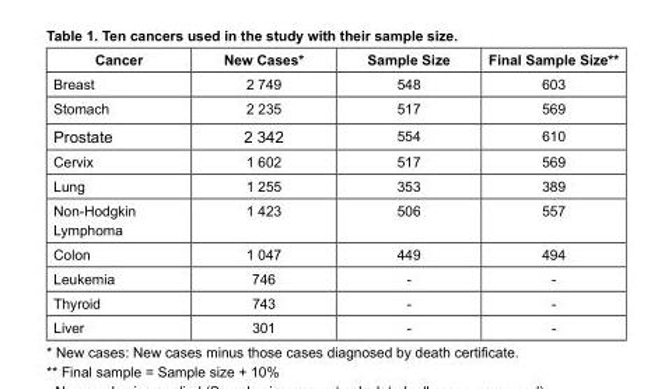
<table><thead><tr><td>Cancer</td><td>New Cases*</td><td>Sample Size</td><td>Final Sample Size**</td></tr></thead><tbody><tr><td>Breast</td><td>2 749</td><td>548</td><td>603</td></tr><tr><td>Stomach</td><td>2 235</td><td>517</td><td>569</td></tr><tr><td>Prostate</td><td>2 342</td><td>554</td><td>610</td></tr><tr><td>Cervix</td><td>1 602</td><td>517</td><td>569</td></tr><tr><td>Lung</td><td>1 255</td><td>353</td><td>389</td></tr><tr><td>Non-Hodgkin Lymphoma</td><td>1 423</td><td>506</td><td>557</td></tr><tr><td>Colon</td><td>1 047</td><td>449</td><td>494</td></tr><tr><td>Leukemia</td><td>746</td><td>-</td><td>-</td></tr><tr><td>Thyroid</td><td>743</td><td>-</td><td>-</td></tr><tr><td>Liver</td><td>301</td><td>-</td><td>-</td></tr></tbody></table>